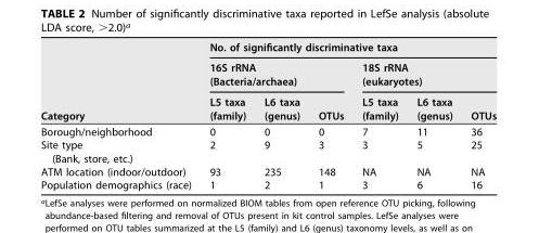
<table><thead><tr><td rowspan="3">Category</td><td colspan="6">No. of significantly discriminative taxa</td></tr><tr><td colspan="3">16S rRNA (Bacteria/archaea)</td><td colspan="3">18S rRNA (eukaryotes)</td></tr><tr><td>L5 taxa (family)</td><td>L6 taxa (genus)</td><td>OTUs</td><td>L5 taxa (family)</td><td>L6 taxa (genus)</td><td>OTUs</td></tr></thead><tbody><tr><td>Borough/neighborhood</td><td>0</td><td>0</td><td>0</td><td>7</td><td>11</td><td>36</td></tr><tr><td>Site type (Bank, store, etc.)</td><td>2</td><td>9</td><td>3</td><td>3</td><td>5</td><td>25</td></tr><tr><td>ATM location (indoor/outdoor)</td><td>93</td><td>235</td><td>148</td><td>NA</td><td>NA</td><td>NA</td></tr><tr><td>Population demographics (race)</td><td>1</td><td>2</td><td>1</td><td>3</td><td>6</td><td>16</td></tr></tbody></table>